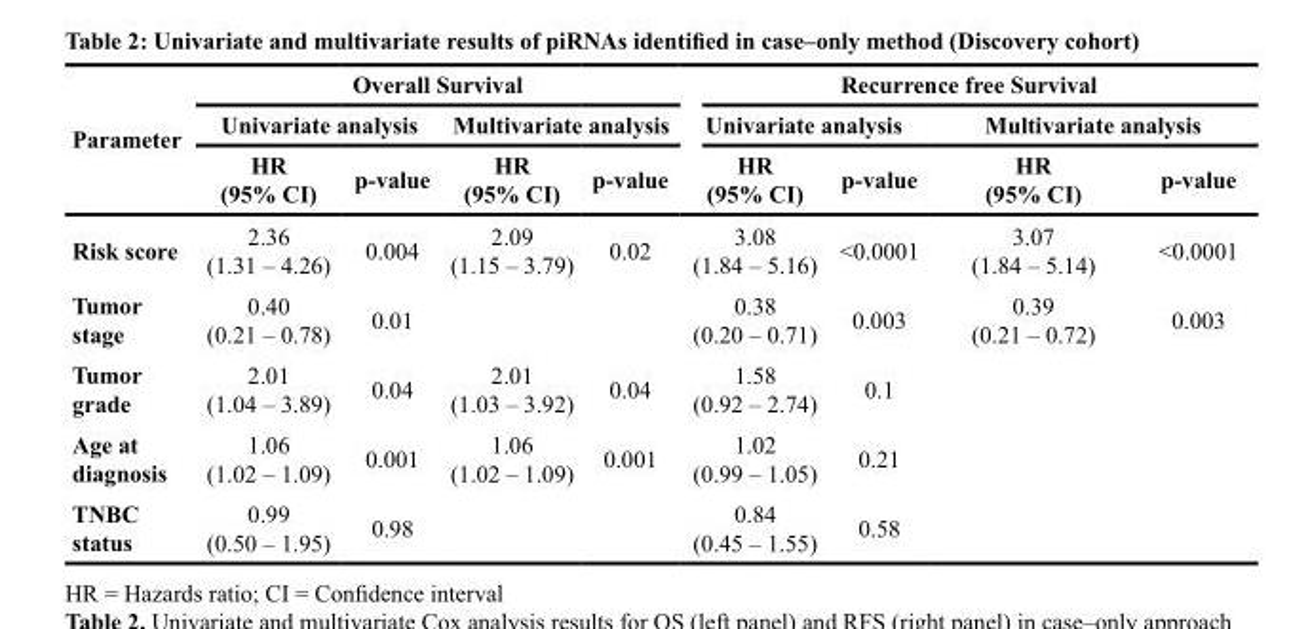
<table><thead><tr><td rowspan="3">Parameter</td><td colspan="4">Overall Survival</td><td colspan="4">Recurrence free Survival</td></tr><tr><td colspan="2">Univariate analysis</td><td colspan="2">Multivariate analysis</td><td colspan="2">Univariate analysis</td><td colspan="2">Multivariate analysis</td></tr><tr><td>HR (95% CI)</td><td>p-value</td><td>HR (95% CI)</td><td>p-value</td><td>HR (95% CI)</td><td>p-value</td><td>HR (95% CI)</td><td>p-value</td></tr></thead><tbody><tr><td>Risk score</td><td>2.36 (1.31 – 4.26)</td><td>0.004</td><td>2.09 (1.15 – 3.79)</td><td>0.02</td><td>3.08 (1.84 – 5.16)</td><td>&lt;0.0001</td><td>3.07 (1.84 – 5.14)</td><td>&lt;0.0001</td></tr><tr><td>Tumor stage</td><td>0.40 (0.21 – 0.78)</td><td>0.01</td><td></td><td></td><td>0.38 (0.20 – 0.71)</td><td>0.003</td><td>0.39 (0.21 – 0.72)</td><td>0.003</td></tr><tr><td>Tumor grade</td><td>2.01 (1.04 – 3.89)</td><td>0.04</td><td>2.01 (1.03 – 3.92)</td><td>0.04</td><td>1.58 (0.92 – 2.74)</td><td>0.1</td><td></td><td></td></tr><tr><td>Age at diagnosis</td><td>1.06 (1.02 – 1.09)</td><td>0.001</td><td>1.06 (1.02 – 1.09)</td><td>0.001</td><td>1.02 (0.99 – 1.05)</td><td>0.21</td><td></td><td></td></tr><tr><td>TNBC status</td><td>0.99 (0.50 – 1.95)</td><td>0.98</td><td></td><td></td><td>0.84 (0.45 – 1.55)</td><td>0.58</td><td></td><td></td></tr></tbody></table>